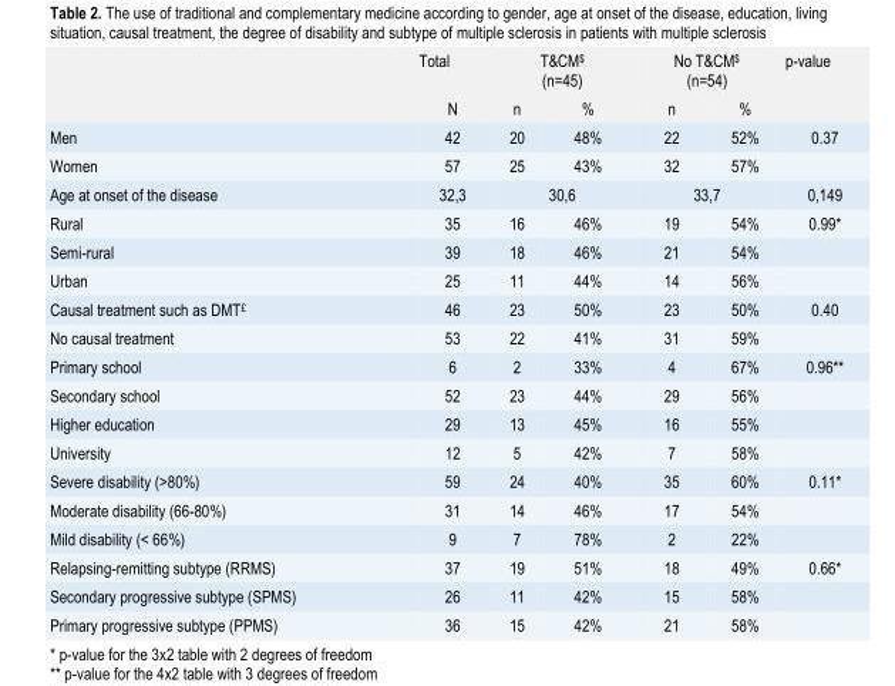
<table><thead><tr><td rowspan="2"></td><td rowspan="2">Total N</td><td colspan="2">T&amp;CM<sup>$</sup> (n=45)</td><td colspan="2">No T&amp;CM<sup>$</sup> (n=54)</td><td rowspan="2">p-value</td></tr><tr><td>n</td><td>%</td><td>n</td><td>%</td></tr></thead><tbody><tr><td>Men</td><td>42</td><td>20</td><td>48%</td><td>22</td><td>52%</td><td>0.37</td></tr><tr><td>Women</td><td>57</td><td>25</td><td>43%</td><td>32</td><td>57%</td><td></td></tr><tr><td>Age at onset of the disease</td><td>32,3</td><td colspan="2">30,6</td><td colspan="2">33,7</td><td>0,149</td></tr><tr><td>Rural</td><td>35</td><td>16</td><td>46%</td><td>19</td><td>54%</td><td>0.99*</td></tr><tr><td>Semi-rural</td><td>39</td><td>18</td><td>46%</td><td>21</td><td>54%</td><td></td></tr><tr><td>Urban</td><td>25</td><td>11</td><td>44%</td><td>14</td><td>56%</td><td></td></tr><tr><td>Causal treatment such as DMT<sup>£</sup></td><td>46</td><td>23</td><td>50%</td><td>23</td><td>50%</td><td>0.40</td></tr><tr><td>No causal treatment</td><td>53</td><td>22</td><td>41%</td><td>31</td><td>59%</td><td></td></tr><tr><td>Primary school</td><td>6</td><td>2</td><td>33%</td><td>4</td><td>67%</td><td>0.96**</td></tr><tr><td>Secondary school</td><td>52</td><td>23</td><td>44%</td><td>29</td><td>56%</td><td></td></tr><tr><td>Higher education</td><td>29</td><td>13</td><td>45%</td><td>16</td><td>55%</td><td></td></tr><tr><td>University</td><td>12</td><td>5</td><td>42%</td><td>7</td><td>58%</td><td></td></tr><tr><td>Severe disability (&gt;80%)</td><td>59</td><td>24</td><td>40%</td><td>35</td><td>60%</td><td>0.11*</td></tr><tr><td>Moderate disability (66-80%)</td><td>31</td><td>14</td><td>46%</td><td>17</td><td>54%</td><td></td></tr><tr><td>Mild disability (&lt; 66%)</td><td>9</td><td>7</td><td>78%</td><td>2</td><td>22%</td><td></td></tr><tr><td>Relapsing-remitting subtype (RRMS)</td><td>37</td><td>19</td><td>51%</td><td>18</td><td>49%</td><td>0.66*</td></tr><tr><td>Secondary progressive subtype (SPMS)</td><td>26</td><td>11</td><td>42%</td><td>15</td><td>58%</td><td></td></tr><tr><td>Primary progressive subtype (PPMS)</td><td>36</td><td>15</td><td>42%</td><td>21</td><td>58%</td><td></td></tr></tbody></table>